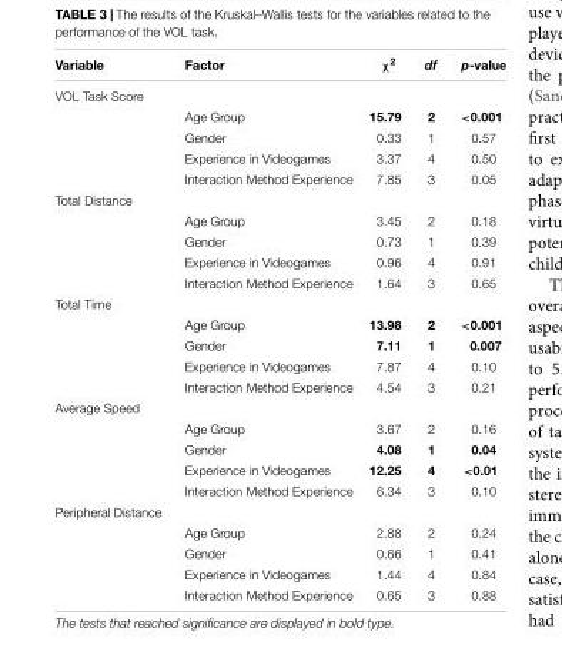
<table><thead><tr><td>Variable</td><td>Factor</td><td>χ<sup>2</sup></td><td>df</td><td>p-value</td></tr></thead><tbody><tr><td colspan="5">VOL Task Score</td></tr><tr><td></td><td>Age Group</td><td>15.79</td><td>2</td><td>&lt;0.001</td></tr><tr><td></td><td>Gender</td><td>0.33</td><td>1</td><td>0.57</td></tr><tr><td></td><td>Experience in Videogames</td><td>3.37</td><td>4</td><td>0.50</td></tr><tr><td></td><td>Interaction Method Experience</td><td>7.85</td><td>3</td><td>0.05</td></tr><tr><td colspan="5">Total Distance</td></tr><tr><td></td><td>Age Group</td><td>3.45</td><td>2</td><td>0.18</td></tr><tr><td></td><td>Gender</td><td>0.73</td><td>1</td><td>0.39</td></tr><tr><td></td><td>Experience in Videogames</td><td>0.96</td><td>4</td><td>0.91</td></tr><tr><td></td><td>Interaction Method Experience</td><td>1.64</td><td>3</td><td>0.65</td></tr><tr><td colspan="5">Total Time</td></tr><tr><td></td><td>Age Group</td><td>13.98</td><td>2</td><td>&lt;0.001</td></tr><tr><td></td><td>Gender</td><td>7.11</td><td>1</td><td>0.007</td></tr><tr><td></td><td>Experience in Videogames</td><td>7.87</td><td>4</td><td>0.10</td></tr><tr><td></td><td>Interaction Method Experience</td><td>4.54</td><td>3</td><td>0.21</td></tr><tr><td colspan="5">Average Speed</td></tr><tr><td></td><td>Age Group</td><td>3.67</td><td>2</td><td>0.16</td></tr><tr><td></td><td>Gender</td><td>4.08</td><td>1</td><td>0.04</td></tr><tr><td></td><td>Experience in Videogames</td><td>12.25</td><td>4</td><td>&lt;0.01</td></tr><tr><td></td><td>Interaction Method Experience</td><td>6.34</td><td>3</td><td>0.10</td></tr><tr><td colspan="5">Peripheral Distance</td></tr><tr><td></td><td>Age Group</td><td>2.88</td><td>2</td><td>0.24</td></tr><tr><td></td><td>Gender</td><td>0.66</td><td>1</td><td>0.41</td></tr><tr><td></td><td>Experience in Videogames</td><td>1.44</td><td>4</td><td>0.84</td></tr><tr><td></td><td>Interaction Method Experience</td><td>0.65</td><td>3</td><td>0.88</td></tr></tbody></table>